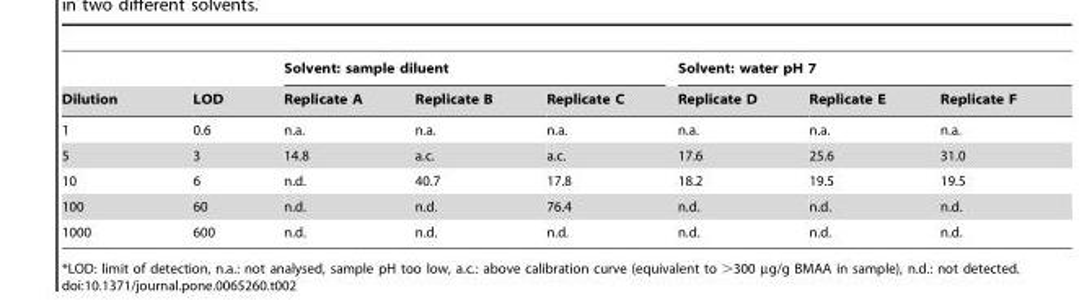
<table><thead><tr><td rowspan="2">Dilution</td><td rowspan="2">LOD</td><td colspan="3">Solvent: sample diluent</td><td colspan="3">Solvent: water pH 7</td></tr><tr><td>Replicate A</td><td>Replicate B</td><td>Replicate C</td><td>Replicate D</td><td>Replicate E</td><td>Replicate F</td></tr></thead><tbody><tr><td>1</td><td>0.6</td><td>n.a.</td><td>n.a.</td><td>n.a.</td><td>n.a.</td><td>n.a.</td><td>n.a.</td></tr><tr><td>5</td><td>3</td><td>14.8</td><td>a.c.</td><td>a.c.</td><td>17.6</td><td>25.6</td><td>31.0</td></tr><tr><td>10</td><td>6</td><td>n.d.</td><td>40.7</td><td>17.8</td><td>18.2</td><td>19.5</td><td>19.5</td></tr><tr><td>100</td><td>60</td><td>n.d.</td><td>n.d.</td><td>76.4</td><td>n.d.</td><td>n.d.</td><td>n.d.</td></tr><tr><td>1000</td><td>600</td><td>n.d.</td><td>n.d.</td><td>n.d.</td><td>n.d.</td><td>n.d.</td><td>n.d.</td></tr></tbody></table>